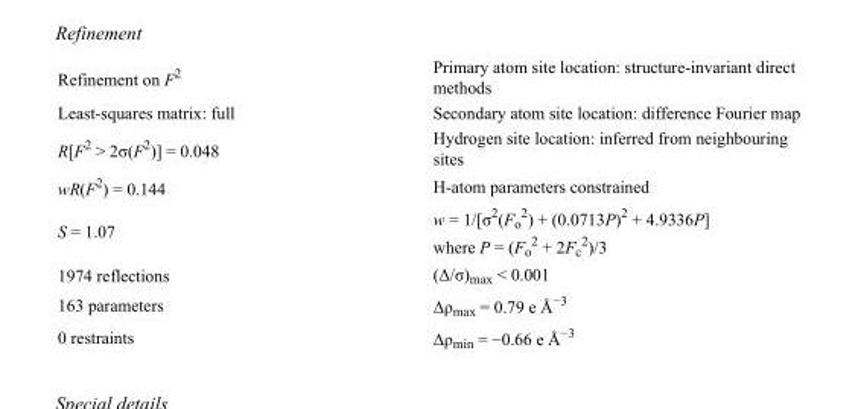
<table><tbody><tr><td>Refinement on F<sup>2</sup></td><td>Primary atom site location: structure-invariant direct methods</td></tr><tr><td>Least-squares matrix: full</td><td>Secondary atom site location: difference Fourier map</td></tr><tr><td>R[F<sup>2</sup> &gt; 2σ(F<sup>2</sup>)] = 0.048</td><td>Hydrogen site location: inferred from neighbouring sites</td></tr><tr><td>wR(F<sup>2</sup>) = 0.144</td><td>H-atom parameters constrained</td></tr><tr><td>S = 1.07</td><td>w = 1/[σ<sup>2</sup>(F<sub>o</sub> <sup>2</sup>) + (0.0713P)<sup>2</sup> + 4.9336P] where P = (F<sub>o</sub> <sup>2</sup> + 2F<sub>c</sub> <sup>2</sup>)/3</td></tr><tr><td>1974 reflections</td><td>(Δ/σ)<sub>max</sub> &lt; 0.001</td></tr><tr><td>163 parameters</td><td>Δρ<sub>max</sub> = 0.79 e Å<sup>−3</sup></td></tr><tr><td>0 restraints</td><td>Δρ<sub>min</sub> = −0.66 e Å<sup>−3</sup></td></tr></tbody></table>